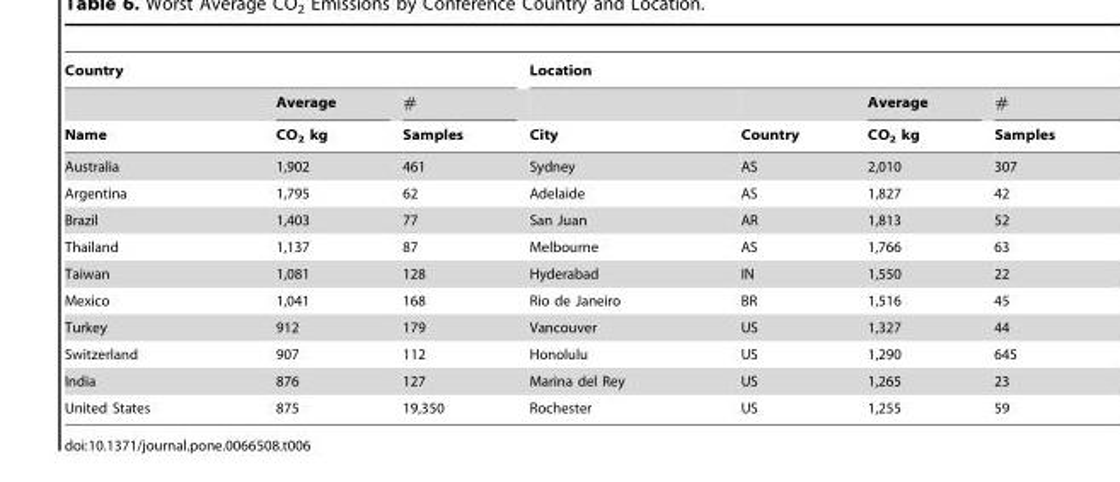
<table><thead><tr><td colspan="3">Country</td><td colspan="4">Location</td></tr><tr><td rowspan="2">Name</td><td rowspan="2">Average CO<sub>2</sub> kg</td><td rowspan="2"># Samples</td><td rowspan="2">City</td><td rowspan="2">Country</td><td rowspan="2">Average CO<sub>2</sub> kg</td><td rowspan="2"># Samples</td></tr><tr></tr></thead><tbody><tr><td>Australia</td><td>1,902</td><td>461</td><td>Sydney</td><td>AS</td><td>2,010</td><td>307</td></tr><tr><td>Argentina</td><td>1,795</td><td>62</td><td>Adelaide</td><td>AS</td><td>1,827</td><td>42</td></tr><tr><td>Brazil</td><td>1,403</td><td>77</td><td>San Juan</td><td>AR</td><td>1,813</td><td>52</td></tr><tr><td>Thailand</td><td>1,137</td><td>87</td><td>Melbourne</td><td>AS</td><td>1,766</td><td>63</td></tr><tr><td>Taiwan</td><td>1,081</td><td>128</td><td>Hyderabad</td><td>IN</td><td>1,550</td><td>22</td></tr><tr><td>Mexico</td><td>1,041</td><td>168</td><td>Rio de Janeiro</td><td>BR</td><td>1,516</td><td>45</td></tr><tr><td>Turkey</td><td>912</td><td>179</td><td>Vancouver</td><td>US</td><td>1,327</td><td>44</td></tr><tr><td>Switzerland</td><td>907</td><td>112</td><td>Honolulu</td><td>US</td><td>1,290</td><td>645</td></tr><tr><td>India</td><td>876</td><td>127</td><td>Marina del Rey</td><td>US</td><td>1,265</td><td>23</td></tr><tr><td>United States</td><td>875</td><td>19,350</td><td>Rochester</td><td>US</td><td>1,255</td><td>59</td></tr></tbody></table>